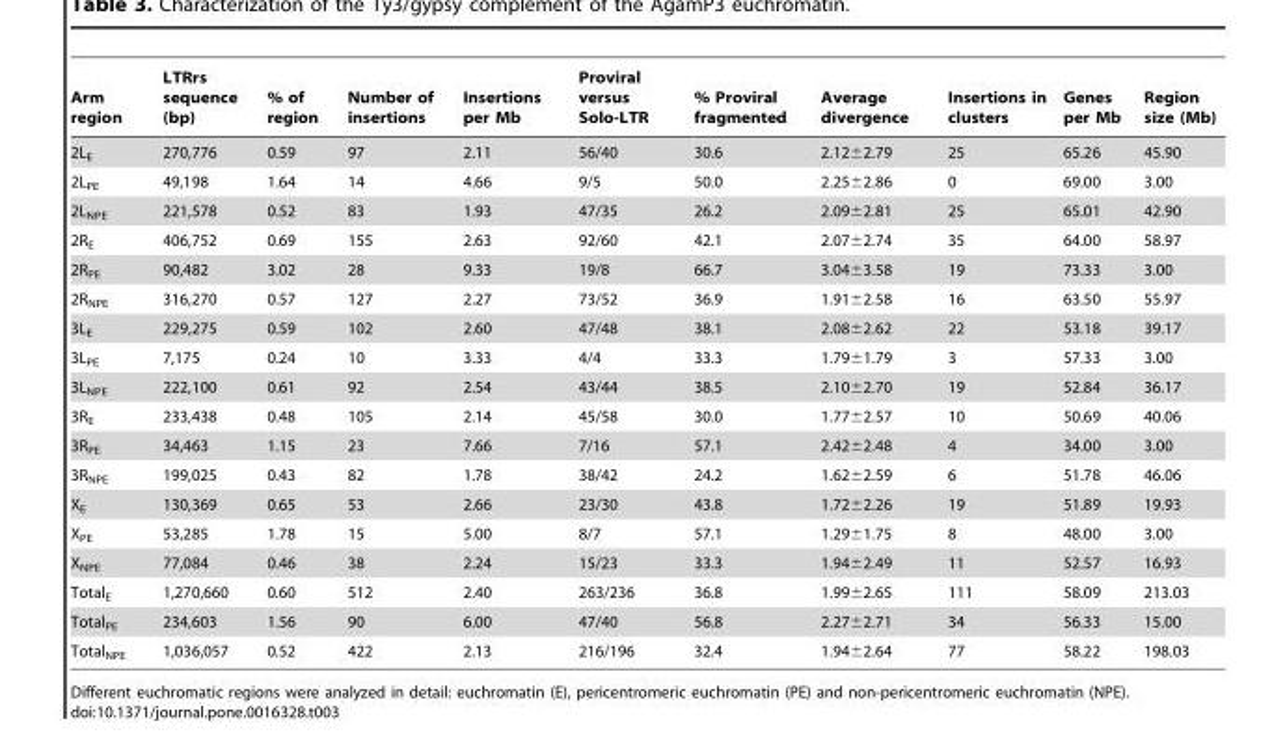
<table><thead><tr><td>Arm region</td><td>LTRrs sequence (bp)</td><td>% of region</td><td>Number of insertions</td><td>Insertions per Mb</td><td>Proviral versus Solo-LTR</td><td>% Proviral fragmented</td><td>Average divergence</td><td>Insertions in clusters</td><td>Genes per Mb</td><td>Region size (Mb)</td></tr></thead><tbody><tr><td>2L<sub>E</sub></td><td>270,776</td><td>0.59</td><td>97</td><td>2.11</td><td>56/40</td><td>30.6</td><td>2.12±2.79</td><td>25</td><td>65.26</td><td>45.90</td></tr><tr><td>2L<sub>PE</sub></td><td>49,198</td><td>1.64</td><td>14</td><td>4.66</td><td>9/5</td><td>50.0</td><td>2.25±2.86</td><td>0</td><td>69.00</td><td>3.00</td></tr><tr><td>2L<sub>NPE</sub></td><td>221,578</td><td>0.52</td><td>83</td><td>1.93</td><td>47/35</td><td>26.2</td><td>2.09±2.81</td><td>25</td><td>65.01</td><td>42.90</td></tr><tr><td>2R<sub>E</sub></td><td>406,752</td><td>0.69</td><td>155</td><td>2.63</td><td>92/60</td><td>42.1</td><td>2.07±2.74</td><td>35</td><td>64.00</td><td>58.97</td></tr><tr><td>2R<sub>PE</sub></td><td>90,482</td><td>3.02</td><td>28</td><td>9.33</td><td>19/8</td><td>66.7</td><td>3.04±3.58</td><td>19</td><td>73.33</td><td>3.00</td></tr><tr><td>2R<sub>NPE</sub></td><td>316,270</td><td>0.57</td><td>127</td><td>2.27</td><td>73/52</td><td>36.9</td><td>1.91±2.58</td><td>16</td><td>63.50</td><td>55.97</td></tr><tr><td>3L<sub>E</sub></td><td>229,275</td><td>0.59</td><td>102</td><td>2.60</td><td>47/48</td><td>38.1</td><td>2.08±2.62</td><td>22</td><td>53.18</td><td>39.17</td></tr><tr><td>3L<sub>PE</sub></td><td>7,175</td><td>0.24</td><td>10</td><td>3.33</td><td>4/4</td><td>33.3</td><td>1.79±1.79</td><td>3</td><td>57.33</td><td>3.00</td></tr><tr><td>3L<sub>NPE</sub></td><td>222,100</td><td>0.61</td><td>92</td><td>2.54</td><td>43/44</td><td>38.5</td><td>2.10±2.70</td><td>19</td><td>52.84</td><td>36.17</td></tr><tr><td>3R<sub>E</sub></td><td>233,438</td><td>0.48</td><td>105</td><td>2.14</td><td>45/58</td><td>30.0</td><td>1.77±2.57</td><td>10</td><td>50.69</td><td>40.06</td></tr><tr><td>3R<sub>PE</sub></td><td>34,463</td><td>1.15</td><td>23</td><td>7.66</td><td>7/16</td><td>57.1</td><td>2.42±2.48</td><td>4</td><td>34.00</td><td>3.00</td></tr><tr><td>3R<sub>NPE</sub></td><td>199,025</td><td>0.43</td><td>82</td><td>1.78</td><td>38/42</td><td>24.2</td><td>1.62±2.59</td><td>6</td><td>51.78</td><td>46.06</td></tr><tr><td>X<sub>E</sub></td><td>130,369</td><td>0.65</td><td>53</td><td>2.66</td><td>23/30</td><td>43.8</td><td>1.72±2.26</td><td>19</td><td>51.89</td><td>19.93</td></tr><tr><td>X<sub>PE</sub></td><td>53,285</td><td>1.78</td><td>15</td><td>5.00</td><td>8/7</td><td>57.1</td><td>1.29±1.75</td><td>8</td><td>48.00</td><td>3.00</td></tr><tr><td>X<sub>NPE</sub></td><td>77,084</td><td>0.46</td><td>38</td><td>2.24</td><td>15/23</td><td>33.3</td><td>1.94±2.49</td><td>11</td><td>52.57</td><td>16.93</td></tr><tr><td>Total<sub>E</sub></td><td>1,270,660</td><td>0.60</td><td>512</td><td>2.40</td><td>263/236</td><td>36.8</td><td>1.99±2.65</td><td>111</td><td>58.09</td><td>213.03</td></tr><tr><td>Total<sub>PE</sub></td><td>234,603</td><td>1.56</td><td>90</td><td>6.00</td><td>47/40</td><td>56.8</td><td>2.27±2.71</td><td>34</td><td>56.33</td><td>15.00</td></tr><tr><td>Total<sub>NPE</sub></td><td>1,036,057</td><td>0.52</td><td>422</td><td>2.13</td><td>216/196</td><td>32.4</td><td>1.94±2.64</td><td>77</td><td>58.22</td><td>198.03</td></tr></tbody></table>